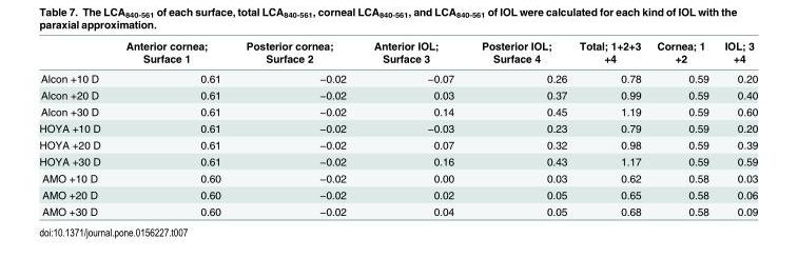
<table><thead><tr><td></td><td>Anterior cornea; Surface 1</td><td>Posterior cornea; Surface 2</td><td>Anterior IOL; Surface 3</td><td>Posterior IOL; Surface 4</td><td>Total; 1+2+3 +4</td><td>Cornea; 1 +2</td><td>IOL; 3 +4</td></tr></thead><tbody><tr><td>Alcon +10 D</td><td>0.61</td><td>−0.02</td><td>−0.07</td><td>0.26</td><td>0.78</td><td>0.59</td><td>0.20</td></tr><tr><td>Alcon +20 D</td><td>0.61</td><td>−0.02</td><td>0.03</td><td>0.37</td><td>0.99</td><td>0.59</td><td>0.40</td></tr><tr><td>Alcon +30 D</td><td>0.61</td><td>−0.02</td><td>0.14</td><td>0.45</td><td>1.19</td><td>0.59</td><td>0.60</td></tr><tr><td>HOYA +10 D</td><td>0.61</td><td>−0.02</td><td>−0.03</td><td>0.23</td><td>0.79</td><td>0.59</td><td>0.20</td></tr><tr><td>HOYA +20 D</td><td>0.61</td><td>−0.02</td><td>0.07</td><td>0.32</td><td>0.98</td><td>0.59</td><td>0.39</td></tr><tr><td>HOYA +30 D</td><td>0.61</td><td>−0.02</td><td>0.16</td><td>0.43</td><td>1.17</td><td>0.59</td><td>0.59</td></tr><tr><td>AMO +10 D</td><td>0.60</td><td>−0.02</td><td>0.00</td><td>0.03</td><td>0.62</td><td>0.58</td><td>0.03</td></tr><tr><td>AMO +20 D</td><td>0.60</td><td>−0.02</td><td>0.02</td><td>0.05</td><td>0.65</td><td>0.58</td><td>0.06</td></tr><tr><td>AMO +30 D</td><td>0.60</td><td>−0.02</td><td>0.04</td><td>0.05</td><td>0.68</td><td>0.58</td><td>0.09</td></tr></tbody></table>